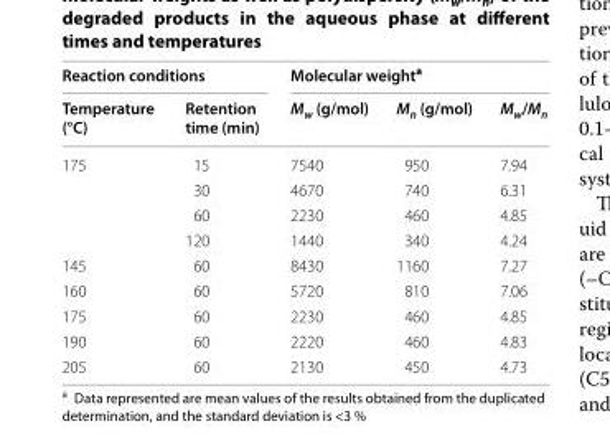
<table><thead><tr><td colspan="2">Reaction conditions</td><td colspan="3">Molecular weight<sup>a</sup></td></tr><tr><td>Temperature (°C)</td><td>Retention time (min)</td><td>M<sub>w</sub> (g/mol)</td><td>M<sub>n</sub> (g/mol)</td><td>M<sub>w</sub>/M<sub>n</sub></td></tr></thead><tbody><tr><td rowspan="4">175</td><td>15</td><td>7540</td><td>950</td><td>7.94</td></tr><tr><td>30</td><td>4670</td><td>740</td><td>6.31</td></tr><tr><td>60</td><td>2230</td><td>460</td><td>4.85</td></tr><tr><td>120</td><td>1440</td><td>340</td><td>4.24</td></tr><tr><td>145</td><td>60</td><td>8430</td><td>1160</td><td>7.27</td></tr><tr><td>160</td><td>60</td><td>5720</td><td>810</td><td>7.06</td></tr><tr><td>175</td><td>60</td><td>2230</td><td>460</td><td>4.85</td></tr><tr><td>190</td><td>60</td><td>2220</td><td>460</td><td>4.83</td></tr><tr><td>205</td><td>60</td><td>2130</td><td>450</td><td>4.73</td></tr></tbody></table>